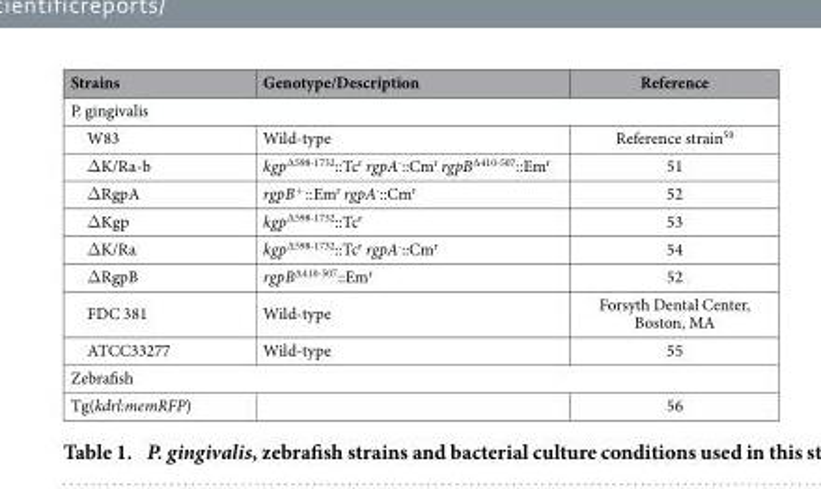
<table><thead><tr><td>Strains</td><td>Genotype/Description</td><td>Reference</td></tr></thead><tbody><tr><td colspan="3">P. gingivalis</td></tr><tr><td>W83</td><td>Wild-type</td><td>Reference strain<sup>50</sup></td></tr><tr><td>Δ K/Ra-b</td><td>kgp<sup>∆598-1732</sup>::Tc<sup>r</sup> rgpA<sup>-</sup>::Cm<sup>r</sup> rgpB<sup>∆410-507</sup>::Em<sup>r</sup></td><td>51</td></tr><tr><td>Δ RgpA</td><td>rgpB <sup>+</sup> ::Em<sup>r</sup> rgpA<sup>-</sup>::Cm<sup>r</sup></td><td>52</td></tr><tr><td>Δ Kgp</td><td>kgp<sup>∆598-1732</sup>::Tc<sup>r</sup></td><td>53</td></tr><tr><td>Δ K/Ra</td><td>kgp<sup>∆598-1732</sup>::Tc<sup>r</sup> rgpA<sup>-</sup>::Cm<sup>r</sup></td><td>54</td></tr><tr><td>Δ RgpB</td><td>rgpB<sup>∆410-507</sup>::Em<sup>r</sup></td><td>52</td></tr><tr><td>FDC 381</td><td>Wild-type</td><td>Forsyth Dental Center, Boston, MA</td></tr><tr><td>ATCC33277</td><td>Wild-type</td><td>55</td></tr><tr><td colspan="3">Zebrafish</td></tr><tr><td>Tg(kdrl:memRFP)</td><td></td><td>56</td></tr></tbody></table>